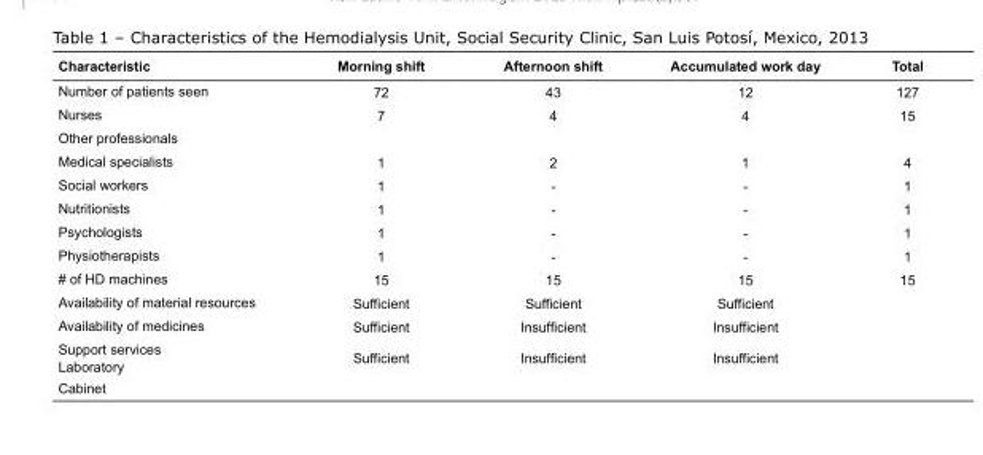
<table><thead><tr><td>Characteristic</td><td>Morning shift</td><td>Afternoon shift</td><td>Accumulated work day</td><td>Total</td></tr></thead><tbody><tr><td>Number of patients seen</td><td>72</td><td>43</td><td>12</td><td>127</td></tr><tr><td>Nurses</td><td>7</td><td>4</td><td>4</td><td>15</td></tr><tr><td colspan="5">Other professionals</td></tr><tr><td>Medical specialists</td><td>1</td><td>2</td><td>1</td><td>4</td></tr><tr><td>Social workers</td><td>1</td><td>-</td><td>-</td><td>1</td></tr><tr><td>Nutritionists</td><td>1</td><td>-</td><td>-</td><td>1</td></tr><tr><td>Psychologists</td><td>1</td><td>-</td><td>-</td><td>1</td></tr><tr><td>Physiotherapists</td><td>1</td><td>-</td><td>-</td><td>1</td></tr><tr><td># of HD machines</td><td>15</td><td>15</td><td>15</td><td>15</td></tr><tr><td>Availability of material resources</td><td>Sufficient</td><td>Sufficient</td><td>Sufficient</td><td></td></tr><tr><td>Availability of medicines</td><td>Sufficient</td><td>Insufficient</td><td>Insufficient</td><td></td></tr><tr><td>Support services Laboratory</td><td>Sufficient</td><td>Insufficient</td><td>Insufficient</td><td></td></tr><tr><td>Cabinet</td><td></td><td></td><td></td><td></td></tr></tbody></table>